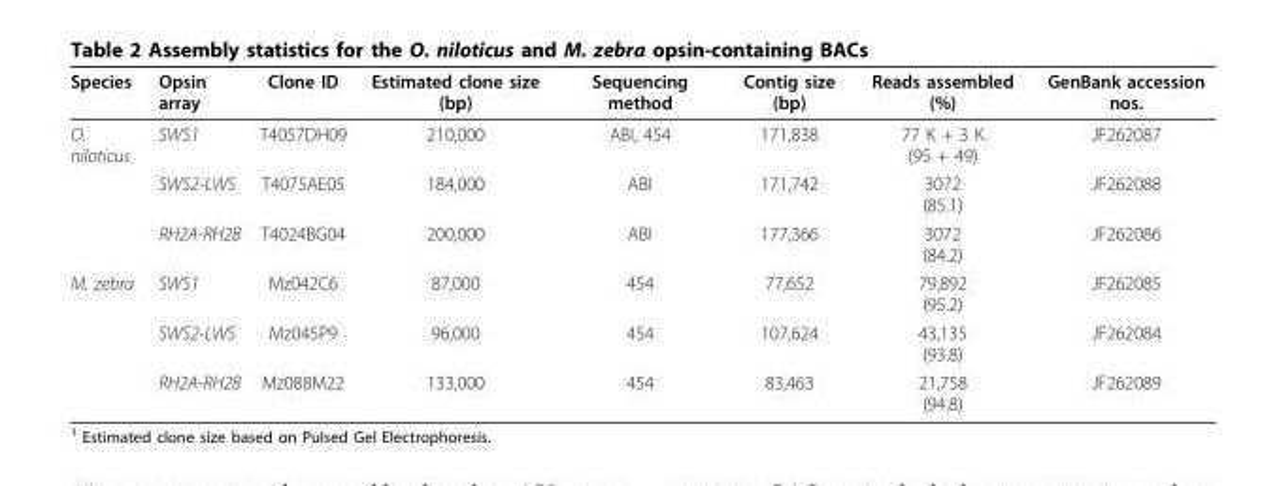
<table><thead><tr><td>Species</td><td>Opsin array</td><td>Clone ID</td><td>Estimated clone size (bp)</td><td>Sequencing method</td><td>Contig size (bp)</td><td>Reads assembled (%)</td><td>GenBank accession nos.</td></tr></thead><tbody><tr><td rowspan="3">O. niloticus</td><td>SWS1</td><td>T4057DH09</td><td>210,000</td><td>ABI, 454</td><td>171,838</td><td>77 K + 3 K (95 + 49)</td><td>JF262087</td></tr><tr><td>SWS2-LWS</td><td>T4075AE05</td><td>184,000</td><td>ABI</td><td>171,742</td><td>3072 (85.1)</td><td>JF262088</td></tr><tr><td>RH2A-RH2B</td><td>T4024BG04</td><td>200,000</td><td>ABI</td><td>177,366</td><td>3072 (84.2)</td><td>JF262086</td></tr><tr><td rowspan="3">M. zebra</td><td>SWS1</td><td>Mz042C6</td><td>87,000</td><td>454</td><td>77,652</td><td>79,892 (95.2)</td><td>JF262085</td></tr><tr><td>SWS2-LWS</td><td>Mz045P9</td><td>96,000</td><td>454</td><td>107,624</td><td>43,135 (93.8)</td><td>JF262084</td></tr><tr><td>RH2A-RH2B</td><td>Mz088M22</td><td>133,000</td><td>454</td><td>83,463</td><td>21,758 (94.8)</td><td>JF262089</td></tr></tbody></table>